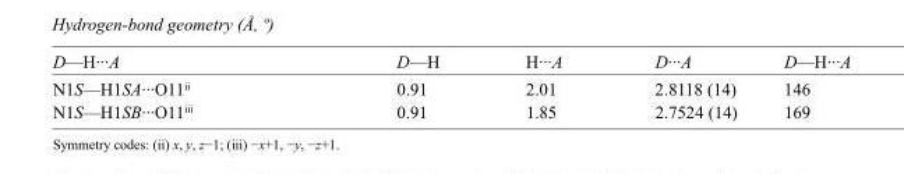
<table><tbody><tr><td>D—H···A</td><td>D—H</td><td>H···A</td><td>D···A</td><td>D—H···A</td></tr><tr><td>N1S—H1SA···O11<sup>ii</sup></td><td>0.91</td><td>2.01</td><td>2.8118 (14)</td><td>146</td></tr><tr><td>N1S—H1SB···O11<sup>iii</sup></td><td>0.91</td><td>1.85</td><td>2.7524 (14)</td><td>169</td></tr></tbody></table>